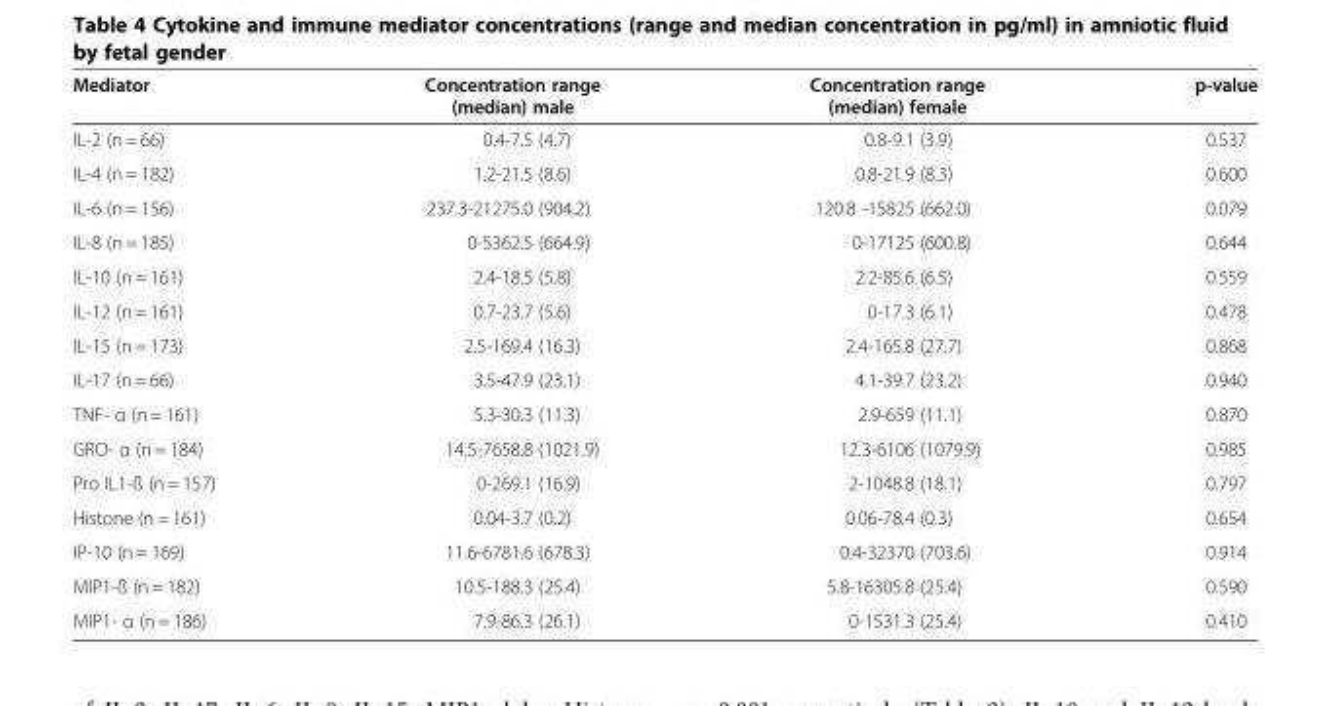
<table><thead><tr><td>Mediator</td><td>Concentration range (median) male</td><td>Concentration range (median) female</td><td>p-value</td></tr></thead><tbody><tr><td>IL-2 (n = 66)</td><td>0.4-7.5 (4.7)</td><td>0.8-9.1 (3.9)</td><td>0.537</td></tr><tr><td>IL-4 (n = 182)</td><td>1.2-21.5 (8.6)</td><td>0.8-21.9 (8.3)</td><td>0.600</td></tr><tr><td>IL-6 (n = 156)</td><td>237.3-21275.0 (904.2)</td><td>120.8 -15825 (662.0)</td><td>0.079</td></tr><tr><td>IL-8 (n = 185)</td><td>0-5362.5 (664.9)</td><td>0-17125 (600.8)</td><td>0.644</td></tr><tr><td>IL-10 (n = 161)</td><td>2.4-18.5 (5.8)</td><td>2.2-85.6 (6.5)</td><td>0.559</td></tr><tr><td>IL-12 (n = 161)</td><td>0.7-23.7 (5.6)</td><td>0-17.3 (6.1)</td><td>0.478</td></tr><tr><td>IL-15 (n = 173)</td><td>2.5-169.4 (16.3)</td><td>2.4-165.8 (27.7)</td><td>0.868</td></tr><tr><td>IL-17 (n = 66)</td><td>3.5-47.9 (23.1)</td><td>4.1-39.7 (23.2)</td><td>0.940</td></tr><tr><td>TNF- α (n = 161)</td><td>5.3-30.3 (11.3)</td><td>2.9-659 (11.1)</td><td>0.870</td></tr><tr><td>GRO- α (n = 184)</td><td>14.5-7658.8 (1021.9)</td><td>12.3-6106 (1079.9)</td><td>0.985</td></tr><tr><td>Pro IL1-ß (n = 157)</td><td>0-269.1 (16.9)</td><td>2-1048.8 (18.1)</td><td>0.797</td></tr><tr><td>Histone (n = 161)</td><td>0.04-3.7 (0.2)</td><td>0.06-78.4 (0.3)</td><td>0.654</td></tr><tr><td>IP-10 (n = 169)</td><td>11.6-6781.6 (678.3)</td><td>0.4-32370 (703.6)</td><td>0.914</td></tr><tr><td>MIP1-ß (n = 182)</td><td>10.5-188.3 (25.4)</td><td>5.8-16305.8 (25.4)</td><td>0.590</td></tr><tr><td>MIP1- α (n = 186)</td><td>7.9-86.3 (26.1)</td><td>0-1531.3 (25.4)</td><td>0.410</td></tr></tbody></table>